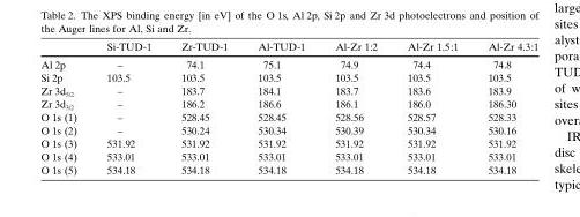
<table><thead><tr><td></td><td>Si-TUD-1</td><td>Zr-TUD-1</td><td>Al-TUD-1</td><td>Al-Zr 1:2</td><td>Al-Zr 1.5:1</td><td>Al-Zr 4.3:1</td></tr></thead><tbody><tr><td>Al 2p</td><td>–</td><td>74.1</td><td>75.1</td><td>74.9</td><td>74.4</td><td>74.8</td></tr><tr><td>Si 2p</td><td>103.5</td><td>103.5</td><td>103.5</td><td>103.5</td><td>103.5</td><td>103.5</td></tr><tr><td>Zr 3d<sub>5/2</sub></td><td>–</td><td>183.7</td><td>184.1</td><td>183.7</td><td>183.6</td><td>183.9</td></tr><tr><td>Zr 3d<sub>3/2</sub></td><td>–</td><td>186.2</td><td>186.6</td><td>186.1</td><td>186.0</td><td>186.30</td></tr><tr><td>O 1s (1)</td><td>–</td><td>528.45</td><td>528.45</td><td>528.56</td><td>528.57</td><td>528.33</td></tr><tr><td>O 1s (2)</td><td>–</td><td>530.24</td><td>530.34</td><td>530.39</td><td>530.34</td><td>530.16</td></tr><tr><td>O 1s (3)</td><td>531.92</td><td>531.92</td><td>531.92</td><td>531.92</td><td>531.92</td><td>531.92</td></tr><tr><td>O 1s (4)</td><td>533.01</td><td>533.01</td><td>533.01</td><td>533.01</td><td>533.01</td><td>533.01</td></tr><tr><td>O 1s (5)</td><td>534.18</td><td>534.18</td><td>534.18</td><td>534.18</td><td>534.18</td><td>534.18</td></tr></tbody></table>